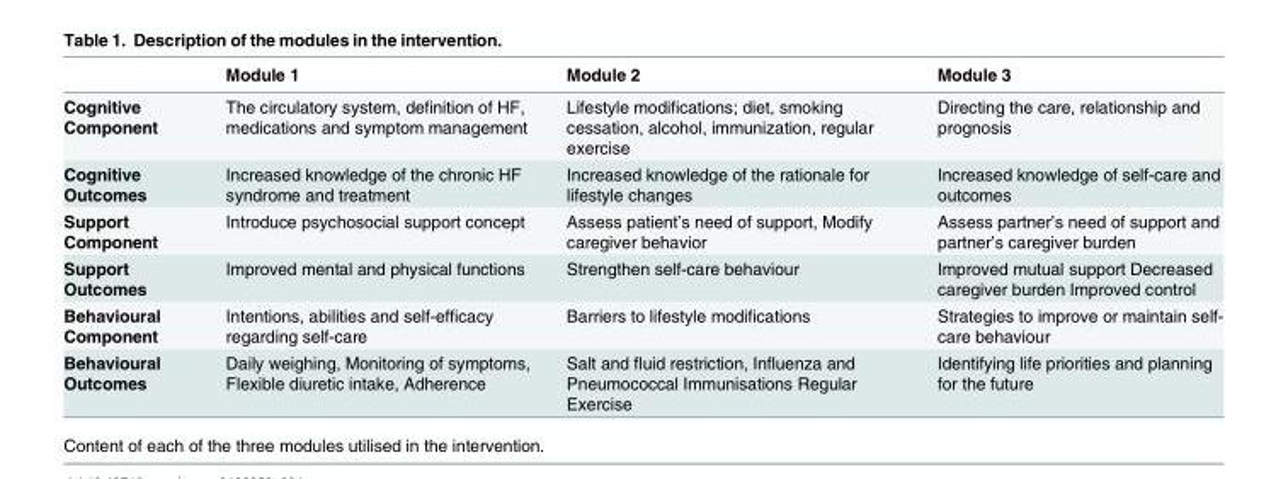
<table><thead><tr><td></td><td>Module 1</td><td>Module 2</td><td>Module 3</td></tr></thead><tbody><tr><td>Cognitive Component</td><td>The circulatory system, definition of HF, medications and symptom management</td><td>Lifestyle modifications; diet, smoking cessation, alcohol, immunization, regular exercise</td><td>Directing the care, relationship and prognosis</td></tr><tr><td>Cognitive Outcomes</td><td>Increased knowledge of the chronic HF syndrome and treatment</td><td>Increased knowledge of the rationale for lifestyle changes</td><td>Increased knowledge of self-care and outcomes</td></tr><tr><td>Support Component</td><td>Introduce psychosocial support concept</td><td>Assess patient’s need of support, Modify caregiver behavior</td><td>Assess partner’s need of support and partner’s caregiver burden</td></tr><tr><td>Support Outcomes</td><td>Improved mental and physical functions</td><td>Strengthen self-care behaviour</td><td>Improved mutual support Decreased caregiver burden Improved control</td></tr><tr><td>Behavioural Component</td><td>Intentions, abilities and self-efficacy regarding self-care</td><td>Barriers to lifestyle modifications</td><td>Strategies to improve or maintain self- care behaviour</td></tr><tr><td>Behavioural Outcomes</td><td>Daily weighing, Monitoring of symptoms, Flexible diuretic intake, Adherence</td><td>Salt and fluid restriction, Influenza and Pneumococcal Immunisations Regular Exercise</td><td>Identifying life priorities and planning for the future</td></tr></tbody></table>